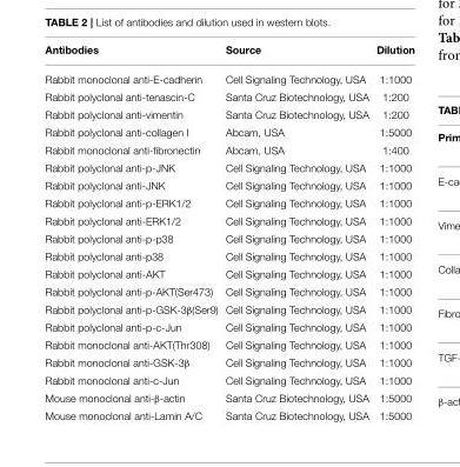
<table><thead><tr><td>Antibodies</td><td>Source</td><td>Dilution</td></tr></thead><tbody><tr><td>Rabbit monoclonal anti-E-cadherin</td><td>Cell Signaling Technology, USA</td><td>1:1000</td></tr><tr><td>Rabbit polyclonal anti-tenascin-C</td><td>Santa Cruz Biotechnology, USA</td><td>1:200</td></tr><tr><td>Rabbit polyclonal anti-vimentin</td><td>Santa Cruz Biotechnology, USA</td><td>1:200</td></tr><tr><td>Rabbit polyclonal anti-collagen I</td><td>Abcam, USA</td><td>1:5000</td></tr><tr><td>Rabbit monoclonal anti-fibronectin</td><td>Abcam, USA</td><td>1:400</td></tr><tr><td>Rabbit polyclonal anti-p-JNK</td><td>Cell Signaling Technology, USA</td><td>1:1000</td></tr><tr><td>Rabbit polyclonal anti-JNK</td><td>Cell Signaling Technology, USA</td><td>1:1000</td></tr><tr><td>Rabbit polyclonal anti-p-ERK1/2</td><td>Cell Signaling Technology, USA</td><td>1:1000</td></tr><tr><td>Rabbit polyclonal anti-ERK1/2</td><td>Cell Signaling Technology, USA</td><td>1:1000</td></tr><tr><td>Rabbit polyclonal anti-p-p38</td><td>Cell Signaling Technology, USA</td><td>1:1000</td></tr><tr><td>Rabbit polyclonal anti-p38</td><td>Cell Signaling Technology, USA</td><td>1:1000</td></tr><tr><td>Rabbit polyclonal anti-AKT</td><td>Cell Signaling Technology, USA</td><td>1:1000</td></tr><tr><td>Rabbit polyclonal anti-p-AKT(Ser473)</td><td>Cell Signaling Technology, USA</td><td>1:1000</td></tr><tr><td>Rabbit polyclonal anti-p-GSK-3β(Ser9)</td><td>Cell Signaling Technology, USA</td><td>1:1000</td></tr><tr><td>Rabbit polyclonal anti-p-c-Jun</td><td>Cell Signaling Technology, USA</td><td>1:1000</td></tr><tr><td>Rabbit monoclonal anti-AKT(Thr308)</td><td>Cell Signaling Technology, USA</td><td>1:1000</td></tr><tr><td>Rabbit monoclonal anti-GSK-3β</td><td>Cell Signaling Technology, USA</td><td>1:1000</td></tr><tr><td>Rabbit monoclonal anti-c-Jun</td><td>Cell Signaling Technology, USA</td><td>1:1000</td></tr><tr><td>Mouse monoclonal anti-β-actin</td><td>Santa Cruz Biotechnology, USA</td><td>1:5000</td></tr><tr><td>Mouse monoclonal anti-Lamin A/C</td><td>Santa Cruz Biotechnology, USA</td><td>1:5000</td></tr></tbody></table>